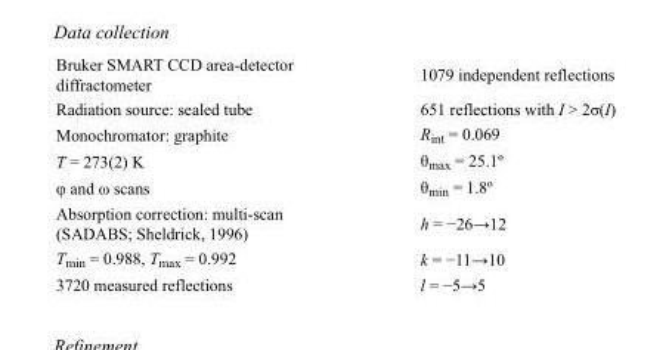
<table><tbody><tr><td>Bruker SMART CCD area-detector diffractometer</td><td>1079 independent reflections</td></tr><tr><td>Radiation source: sealed tube</td><td>651 reflections with I &gt; 2σ(I)</td></tr><tr><td>Monochromator: graphite</td><td>R<sub>int</sub> = 0.069</td></tr><tr><td>T = 273(2) K</td><td>θ<sub>max</sub> = 25.1º</td></tr><tr><td>φ and ω scans</td><td>θ<sub>min</sub> = 1.8º</td></tr><tr><td>Absorption correction: multi-scan (SADABS; Sheldrick, 1996)</td><td>h = −26→12</td></tr><tr><td>T<sub>min</sub> = 0.988, T<sub>max</sub> = 0.992</td><td>k = −11→10</td></tr><tr><td>3720 measured reflections</td><td>l = −5→5</td></tr></tbody></table>